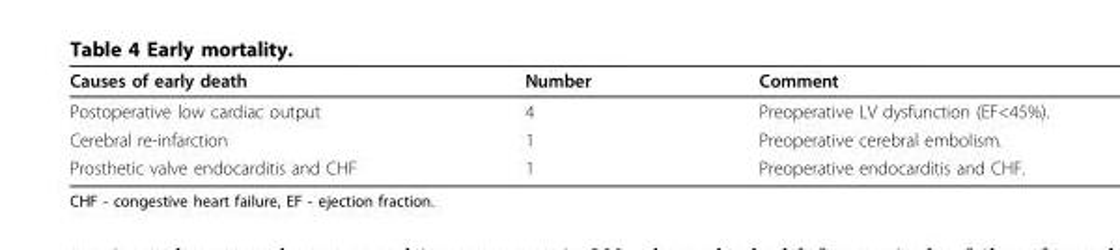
<table><thead><tr><td>Causes of early death</td><td>Number</td><td>Comment</td></tr></thead><tbody><tr><td>Postoperative low cardiac output</td><td>4</td><td>Preoperative LV dysfunction (EF&lt;45%).</td></tr><tr><td>Cerebral re-infarction</td><td>1</td><td>Preoperative cerebral embolism.</td></tr><tr><td>Prosthetic valve endocarditis and CHF</td><td>1</td><td>Preoperative endocarditis and CHF.</td></tr></tbody></table>